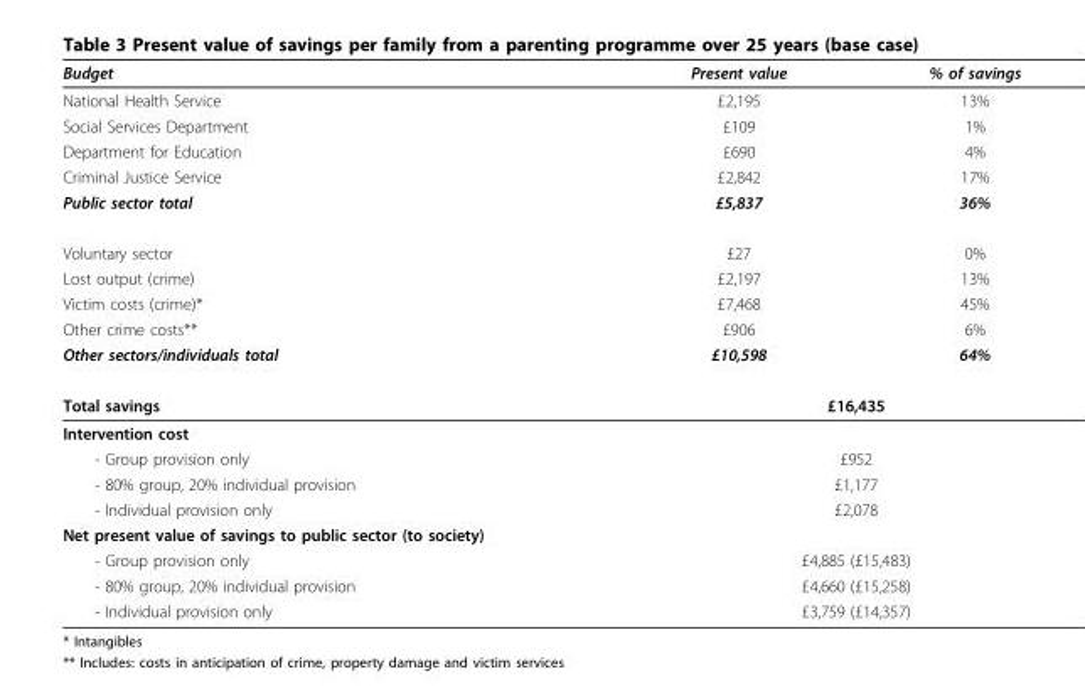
<table><thead><tr><td>Budget</td><td>Present value</td><td>% of savings</td></tr></thead><tbody><tr><td>National Health Service</td><td>£2,195</td><td>13%</td></tr><tr><td>Social Services Department</td><td>£109</td><td>1%</td></tr><tr><td>Department for Education</td><td>£690</td><td>4%</td></tr><tr><td>Criminal Justice Service</td><td>£2,842</td><td>17%</td></tr><tr><td>Public sector total</td><td>£5,837</td><td>36%</td></tr><tr><td>Voluntary sector</td><td>£27</td><td>0%</td></tr><tr><td>Lost output (crime)</td><td>£2,197</td><td>13%</td></tr><tr><td>Victim costs (crime)*</td><td>£7,468</td><td>45%</td></tr><tr><td>Other crime costs**</td><td>£906</td><td>6%</td></tr><tr><td>Other sectors/individuals total</td><td>£10,598</td><td>64%</td></tr><tr><td>Total savings</td><td colspan="2">£16,435</td></tr><tr><td colspan="3">Intervention cost</td></tr><tr><td>- Group provision only</td><td colspan="2">£952</td></tr><tr><td>- 80% group, 20% individual provision</td><td colspan="2">£1,177</td></tr><tr><td>- Individual provision only</td><td colspan="2">£2,078</td></tr><tr><td colspan="3">Net present value of savings to public sector (to society)</td></tr><tr><td>- Group provision only</td><td colspan="2">£4,885 (£15,483)</td></tr><tr><td>- 80% group, 20% individual provision</td><td colspan="2">£4,660 (£15,258)</td></tr><tr><td>- Individual provision only</td><td colspan="2">£3,759 (£14,357)</td></tr></tbody></table>